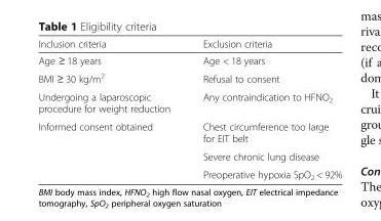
<table><thead><tr><td>Inclusion criteria</td><td>Exclusion criteria</td></tr></thead><tbody><tr><td>Age ≥ 18 years</td><td>Age &lt; 18 years</td></tr><tr><td>BMI ≥ 30 kg/m<sup>2</sup></td><td>Refusal to consent</td></tr><tr><td>Undergoing a laparoscopic procedure for weight reduction</td><td>Any contraindication to HFNO<sub>2</sub></td></tr><tr><td rowspan="3">Informed consent obtained</td><td>Chest circumference too large for EIT belt</td></tr><tr><td>Severe chronic lung disease</td></tr><tr><td>Preoperative hypoxia SpO<sub>2</sub> &lt; 92%</td></tr></tbody></table>